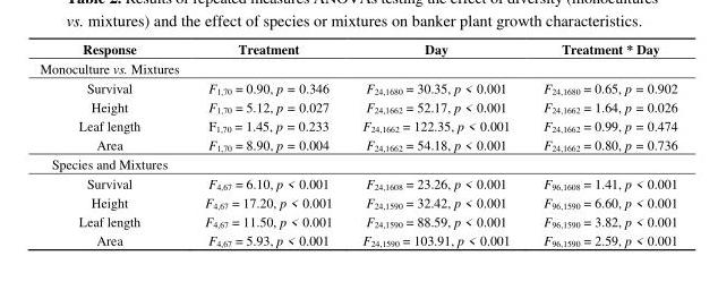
<table><thead><tr><td>Response</td><td>Treatment</td><td>Day</td><td>Treatment * Day</td></tr></thead><tbody><tr><td colspan="4">Monoculture vs. Mixtures</td></tr><tr><td>Survival</td><td>F<sub>1,70</sub> = 0.90, p = 0.346</td><td>F<sub>24,1680</sub> = 30.35, p &lt; 0.001</td><td>F<sub>24,1680</sub> = 0.65, p = 0.902</td></tr><tr><td>Height</td><td>F<sub>1,70</sub> = 5.12, p = 0.027</td><td>F<sub>24,1662</sub> = 52.17, p &lt; 0.001</td><td>F<sub>24,1662</sub> = 1.64, p = 0.026</td></tr><tr><td>Leaf length</td><td>F<sub>1,70</sub> = 1.45, p = 0.233</td><td>F<sub>24,1662</sub> = 122.35, p &lt; 0.001</td><td>F<sub>24,1662</sub> = 0.99, p = 0.474</td></tr><tr><td>Area</td><td>F<sub>1,70</sub> = 8.90, p = 0.004</td><td>F<sub>24,1662</sub> = 54.18, p &lt; 0.001</td><td>F<sub>24,1662</sub> = 0.80, p = 0.736</td></tr><tr><td colspan="4">Species and Mixtures</td></tr><tr><td>Survival</td><td>F<sub>4,67</sub> = 6.10, p &lt; 0.001</td><td>F<sub>24,1608</sub> = 23.26, p &lt; 0.001</td><td>F<sub>96,1608</sub> = 1.41, p &lt; 0.001</td></tr><tr><td>Height</td><td>F<sub>4,67</sub> = 17.20, p &lt; 0.001</td><td>F<sub>24,1590</sub> = 32.42, p &lt; 0.001</td><td>F<sub>96,1590</sub> = 6.60, p &lt; 0.001</td></tr><tr><td>Leaf length</td><td>F<sub>4,67</sub> = 11.50, p &lt; 0.001</td><td>F<sub>24,1590</sub> = 88.59, p &lt; 0.001</td><td>F<sub>96,1590</sub> = 3.82, p &lt; 0.001</td></tr><tr><td>Area</td><td>F<sub>4,67</sub> = 5.93, p &lt; 0.001</td><td>F<sub>24,1590</sub> = 103.91, p &lt; 0.001</td><td>F<sub>96,1590</sub> = 2.59, p &lt; 0.001</td></tr></tbody></table>